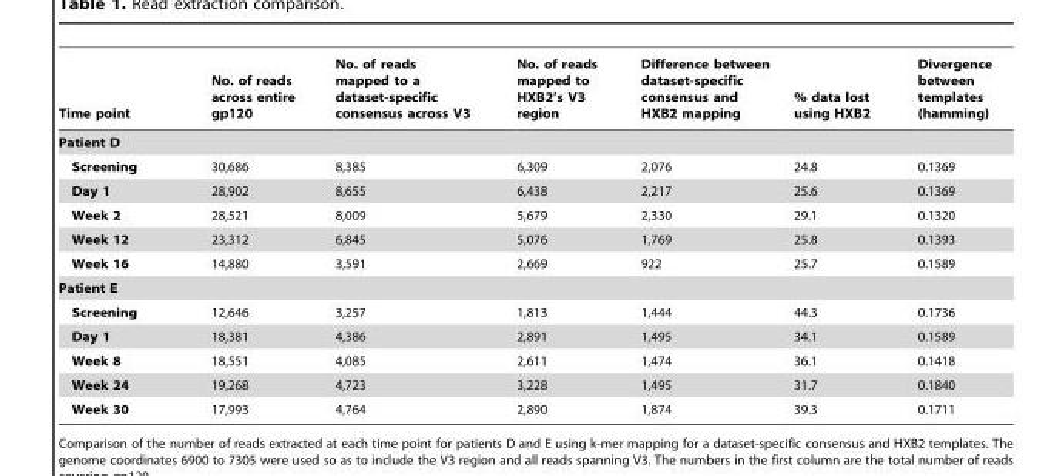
<table><thead><tr><td>Time point</td><td>No. of reads across entire gp120</td><td>No. of reads mapped to a dataset-specific consensus across V3</td><td>No. of reads mapped to HXB2’s V3 region</td><td>Difference between dataset-specific consensus and HXB2 mapping</td><td>% data lost using HXB2</td><td>Divergence between templates (hamming)</td></tr></thead><tbody><tr><td colspan="7">Patient D</td></tr><tr><td>Screening</td><td>30,686</td><td>8,385</td><td>6,309</td><td>2,076</td><td>24.8</td><td>0.1369</td></tr><tr><td>Day 1</td><td>28,902</td><td>8,655</td><td>6,438</td><td>2,217</td><td>25.6</td><td>0.1369</td></tr><tr><td>Week 2</td><td>28,521</td><td>8,009</td><td>5,679</td><td>2,330</td><td>29.1</td><td>0.1320</td></tr><tr><td>Week 12</td><td>23,312</td><td>6,845</td><td>5,076</td><td>1,769</td><td>25.8</td><td>0.1393</td></tr><tr><td>Week 16</td><td>14,880</td><td>3,591</td><td>2,669</td><td>922</td><td>25.7</td><td>0.1589</td></tr><tr><td colspan="7">Patient E</td></tr><tr><td>Screening</td><td>12,646</td><td>3,257</td><td>1,813</td><td>1,444</td><td>44.3</td><td>0.1736</td></tr><tr><td>Day 1</td><td>18,381</td><td>4,386</td><td>2,891</td><td>1,495</td><td>34.1</td><td>0.1589</td></tr><tr><td>Week 8</td><td>18,551</td><td>4,085</td><td>2,611</td><td>1,474</td><td>36.1</td><td>0.1418</td></tr><tr><td>Week 24</td><td>19,268</td><td>4,723</td><td>3,228</td><td>1,495</td><td>31.7</td><td>0.1840</td></tr><tr><td>Week 30</td><td>17,993</td><td>4,764</td><td>2,890</td><td>1,874</td><td>39.3</td><td>0.1711</td></tr></tbody></table>